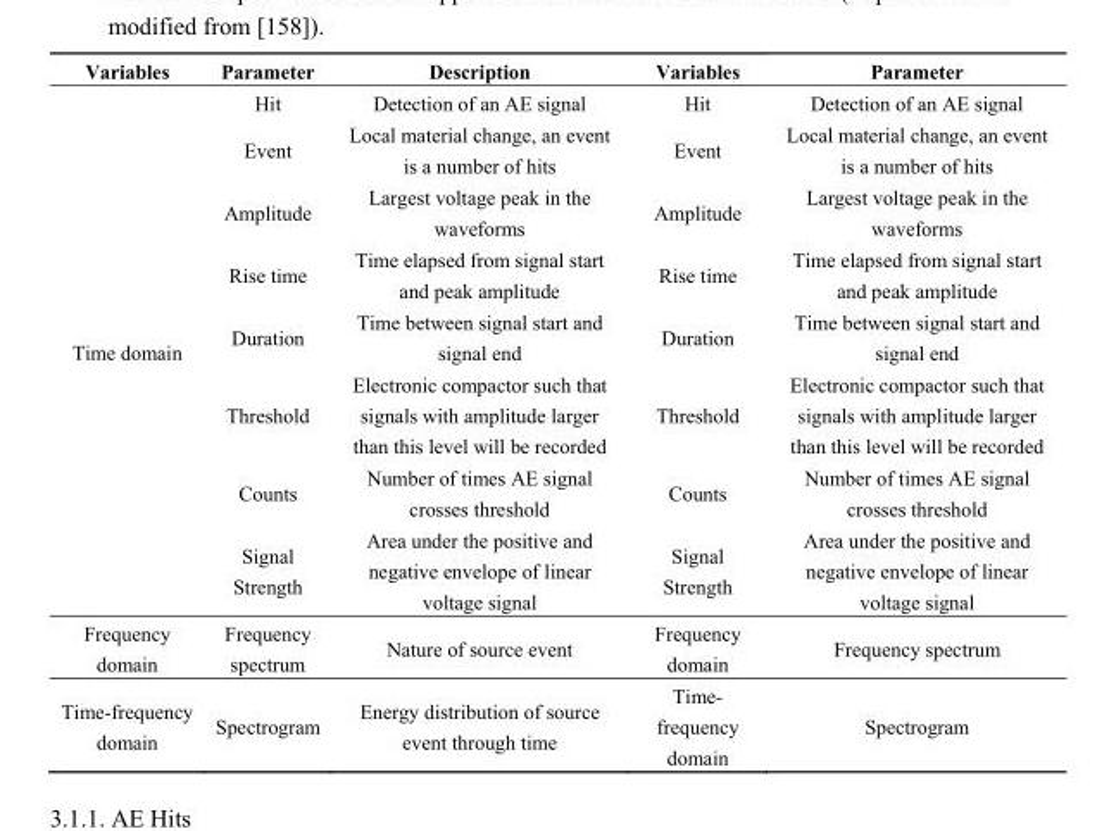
<table><thead><tr><td>Variables</td><td>Parameter</td><td>Description</td><td>Variables</td><td>Parameter</td></tr></thead><tbody><tr><td rowspan="8">Time domain</td><td>Hit</td><td>Detection of an AE signal</td><td>Hit</td><td>Detection of an AE signal</td></tr><tr><td>Event</td><td>Local material change, an event is a number of hits</td><td>Event</td><td>Local material change, an event is a number of hits</td></tr><tr><td>Amplitude</td><td>Largest voltage peak in the waveforms</td><td>Amplitude</td><td>Largest voltage peak in the waveforms</td></tr><tr><td>Rise time</td><td>Time elapsed from signal start and peak amplitude</td><td>Rise time</td><td>Time elapsed from signal start and peak amplitude</td></tr><tr><td>Duration</td><td>Time between signal start and signal end</td><td>Duration</td><td>Time between signal start and signal end</td></tr><tr><td>Threshold</td><td>Electronic compactor such that signals with amplitude larger than this level will be recorded</td><td>Threshold</td><td>Electronic compactor such that signals with amplitude larger than this level will be recorded</td></tr><tr><td>Counts</td><td>Number of times AE signal crosses threshold</td><td>Counts</td><td>Number of times AE signal crosses threshold</td></tr><tr><td>Signal Strength</td><td>Area under the positive and negative envelope of linear voltage signal</td><td>Signal Strength</td><td>Area under the positive and negative envelope of linear voltage signal</td></tr><tr><td>Frequency domain</td><td>Frequency spectrum</td><td>Nature of source event</td><td>Frequency domain</td><td>Frequency spectrum</td></tr><tr><td>Time-frequency domain</td><td>Spectrogram</td><td>Energy distribution of source event through time</td><td>Time- frequency domain</td><td>Spectrogram</td></tr></tbody></table>